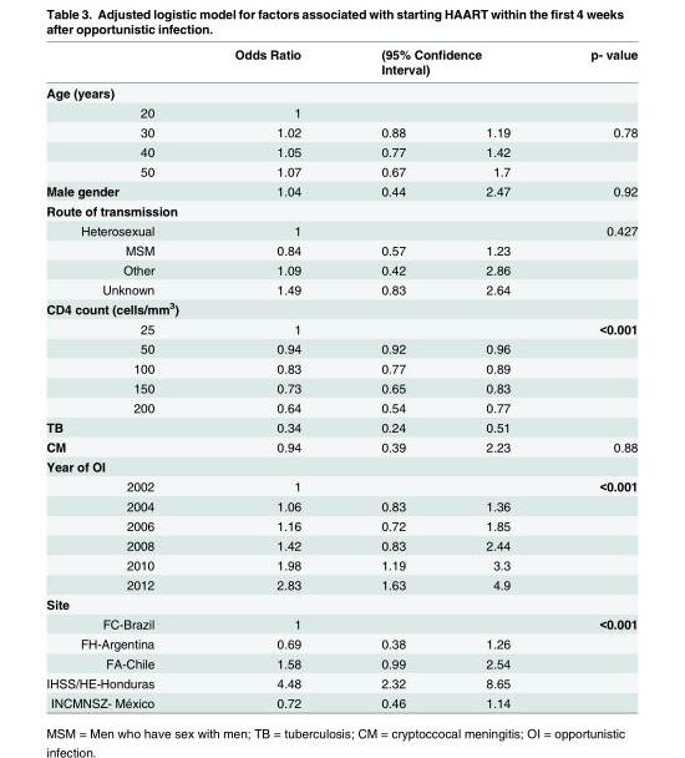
<table><thead><tr><td rowspan="2">Age (years)</td><td rowspan="2">Odds Ratio</td><td colspan="2">(95% Confidence Interval)</td><td rowspan="2">p- value</td></tr><tr><td></td><td></td></tr></thead><tbody><tr><td>20</td><td>1</td><td></td><td></td><td></td></tr><tr><td>30</td><td>1.02</td><td>0.88</td><td>1.19</td><td>0.78</td></tr><tr><td>40</td><td>1.05</td><td>0.77</td><td>1.42</td><td></td></tr><tr><td>50</td><td>1.07</td><td>0.67</td><td>1.7</td><td></td></tr><tr><td>Male gender</td><td>1.04</td><td>0.44</td><td>2.47</td><td>0.92</td></tr><tr><td colspan="5">Route of transmission</td></tr><tr><td>Heterosexual</td><td>1</td><td></td><td></td><td>0.427</td></tr><tr><td>MSM</td><td>0.84</td><td>0.57</td><td>1.23</td><td></td></tr><tr><td>Other</td><td>1.09</td><td>0.42</td><td>2.86</td><td></td></tr><tr><td>Unknown</td><td>1.49</td><td>0.83</td><td>2.64</td><td></td></tr><tr><td colspan="5">CD4 count (cells/mm<sup>3</sup>)</td></tr><tr><td>25</td><td>1</td><td></td><td></td><td>&lt;0.001</td></tr><tr><td>50</td><td>0.94</td><td>0.92</td><td>0.96</td><td></td></tr><tr><td>100</td><td>0.83</td><td>0.77</td><td>0.89</td><td></td></tr><tr><td>150</td><td>0.73</td><td>0.65</td><td>0.83</td><td></td></tr><tr><td>200</td><td>0.64</td><td>0.54</td><td>0.77</td><td></td></tr><tr><td>TB</td><td>0.34</td><td>0.24</td><td>0.51</td><td></td></tr><tr><td>CM</td><td>0.94</td><td>0.39</td><td>2.23</td><td>0.88</td></tr><tr><td colspan="5">Year of OI</td></tr><tr><td>2002</td><td>1</td><td></td><td></td><td>&lt;0.001</td></tr><tr><td>2004</td><td>1.06</td><td>0.83</td><td>1.36</td><td></td></tr><tr><td>2006</td><td>1.16</td><td>0.72</td><td>1.85</td><td></td></tr><tr><td>2008</td><td>1.42</td><td>0.83</td><td>2.44</td><td></td></tr><tr><td>2010</td><td>1.98</td><td>1.19</td><td>3.3</td><td></td></tr><tr><td>2012</td><td>2.83</td><td>1.63</td><td>4.9</td><td></td></tr><tr><td colspan="5">Site</td></tr><tr><td>FC-Brazil</td><td>1</td><td></td><td></td><td>&lt;0.001</td></tr><tr><td>FH-Argentina</td><td>0.69</td><td>0.38</td><td>1.26</td><td></td></tr><tr><td>FA-Chile</td><td>1.58</td><td>0.99</td><td>2.54</td><td></td></tr><tr><td>IHSS/HE-Honduras</td><td>4.48</td><td>2.32</td><td>8.65</td><td></td></tr><tr><td>INCMNSZ- México</td><td>0.72</td><td>0.46</td><td>1.14</td><td></td></tr></tbody></table>